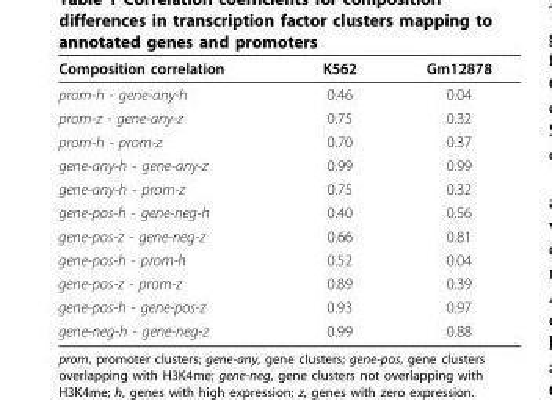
<table><thead><tr><td>Composition correlation</td><td>K562</td><td>Gm12878</td></tr></thead><tbody><tr><td>prom-h - gene-any-h</td><td>0.46</td><td>0.04</td></tr><tr><td>prom-z - gene-any-z</td><td>0.75</td><td>0.32</td></tr><tr><td>prom-h - prom-z</td><td>0.70</td><td>0.37</td></tr><tr><td>gene-any-h - gene-any-z</td><td>0.99</td><td>0.99</td></tr><tr><td>gene-any-h - prom-z</td><td>0.75</td><td>0.32</td></tr><tr><td>gene-pos-h - gene-neg-h</td><td>0.40</td><td>0.56</td></tr><tr><td>gene-pos-z - gene-neg-z</td><td>0.66</td><td>0.81</td></tr><tr><td>gene-pos-h - prom-h</td><td>0.52</td><td>0.04</td></tr><tr><td>gene-pos-z - prom-z</td><td>0.89</td><td>0.39</td></tr><tr><td>gene-pos-h - gene-pos-z</td><td>0.93</td><td>0.97</td></tr><tr><td>gene-neg-h - gene-neg-z</td><td>0.99</td><td>0.88</td></tr></tbody></table>